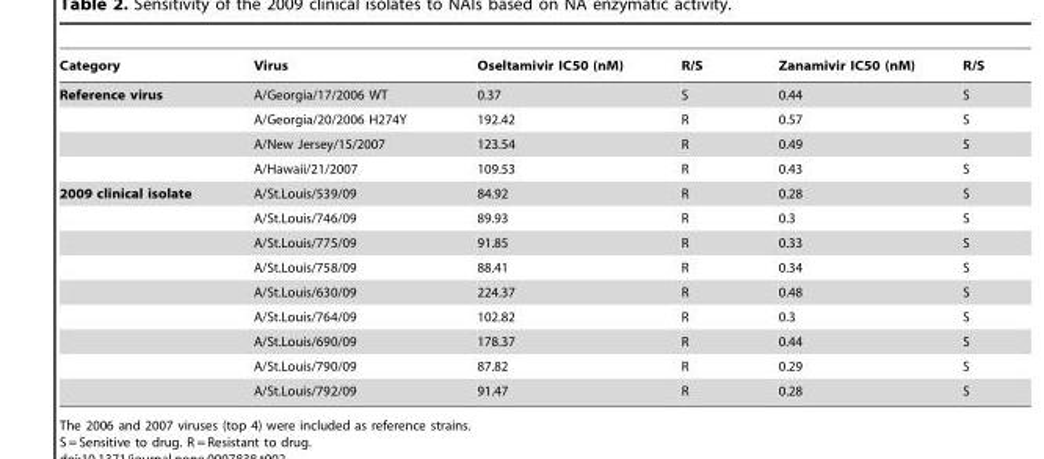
<table><thead><tr><td>Category</td><td>Virus</td><td>Oseltamivir IC50 (nM)</td><td>R/S</td><td>Zanamivir IC50 (nM)</td><td>R/S</td></tr></thead><tbody><tr><td rowspan="4">Reference virus</td><td>A/Georgia/17/2006 WT</td><td>0.37</td><td>S</td><td>0.44</td><td>S</td></tr><tr><td>A/Georgia/20/2006 H274Y</td><td>192.42</td><td>R</td><td>0.57</td><td>S</td></tr><tr><td>A/New Jersey/15/2007</td><td>123.54</td><td>R</td><td>0.49</td><td>S</td></tr><tr><td>A/Hawaii/21/2007</td><td>109.53</td><td>R</td><td>0.43</td><td>S</td></tr><tr><td rowspan="9">2009 clinical isolate</td><td>A/St.Louis/539/09</td><td>84.92</td><td>R</td><td>0.28</td><td>S</td></tr><tr><td>A/St.Louis/746/09</td><td>89.93</td><td>R</td><td>0.3</td><td>S</td></tr><tr><td>A/St.Louis/775/09</td><td>91.85</td><td>R</td><td>0.33</td><td>S</td></tr><tr><td>A/St.Louis/758/09</td><td>88.41</td><td>R</td><td>0.34</td><td>S</td></tr><tr><td>A/St.Louis/630/09</td><td>224.37</td><td>R</td><td>0.48</td><td>S</td></tr><tr><td>A/St.Louis/764/09</td><td>102.82</td><td>R</td><td>0.3</td><td>S</td></tr><tr><td>A/St.Louis/690/09</td><td>178.37</td><td>R</td><td>0.44</td><td>S</td></tr><tr><td>A/St.Louis/790/09</td><td>87.82</td><td>R</td><td>0.29</td><td>S</td></tr><tr><td>A/St.Louis/792/09</td><td>91.47</td><td>R</td><td>0.28</td><td>S</td></tr></tbody></table>